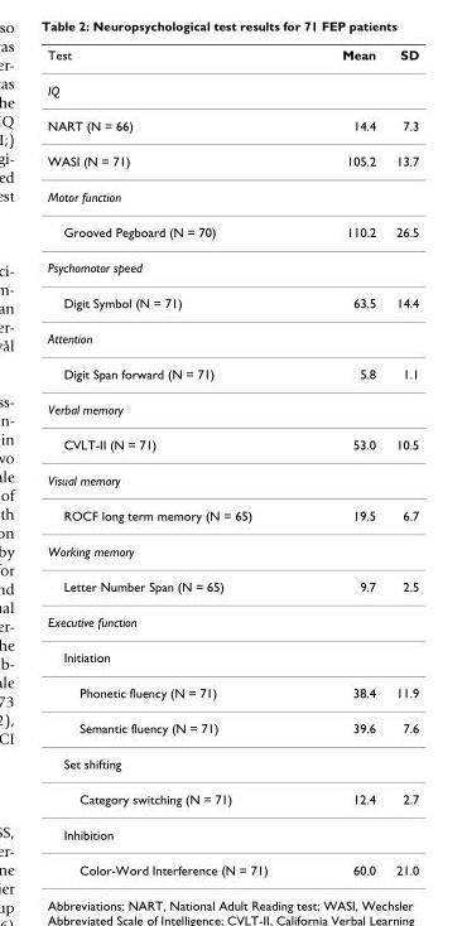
<table><thead><tr><td>Test</td><td>Mean</td><td>SD</td></tr></thead><tbody><tr><td colspan="3">IQ</td></tr><tr><td>NART (N = 66)</td><td>14.4</td><td>7.3</td></tr><tr><td>WASI (N = 71)</td><td>105.2</td><td>13.7</td></tr><tr><td colspan="3">Motor function</td></tr><tr><td>Grooved Pegboard (N = 70)</td><td>110.2</td><td>26.5</td></tr><tr><td colspan="3">Psychomotor speed</td></tr><tr><td>Digit Symbol (N = 71)</td><td>63.5</td><td>14.4</td></tr><tr><td colspan="3">Attention</td></tr><tr><td>Digit Span forward (N = 71)</td><td>5.8</td><td>1.1</td></tr><tr><td colspan="3">Verbal memory</td></tr><tr><td>CVLT-II (N = 71)</td><td>53.0</td><td>10.5</td></tr><tr><td colspan="3">Visual memory</td></tr><tr><td>ROCF long term memory (N = 65)</td><td>19.5</td><td>6.7</td></tr><tr><td colspan="3">Working memory</td></tr><tr><td>Letter Number Span (N = 65)</td><td>9.7</td><td>2.5</td></tr><tr><td colspan="3">Executive function</td></tr><tr><td colspan="3">Initiation</td></tr><tr><td>Phonetic fluency (N = 71)</td><td>38.4</td><td>11.9</td></tr><tr><td>Semantic fluency (N = 71)</td><td>39.6</td><td>7.6</td></tr><tr><td colspan="3">Set shifting</td></tr><tr><td>Category switching (N = 71)</td><td>12.4</td><td>2.7</td></tr><tr><td colspan="3">Inhibition</td></tr><tr><td>Color-Word Interference (N = 71)</td><td>60.0</td><td>21.0</td></tr></tbody></table>